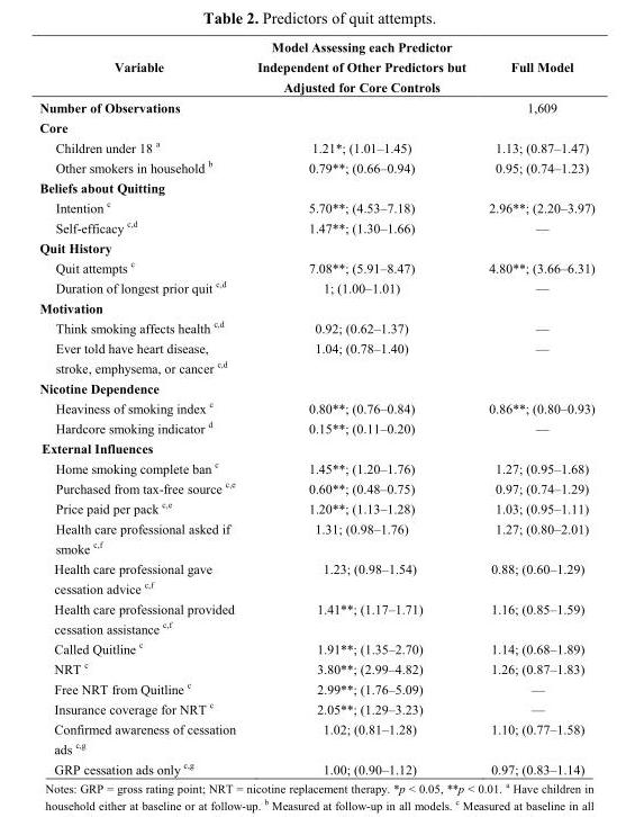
<table><thead><tr><td>Variable</td><td>Model Assessing each Predictor Independent of Other Predictors but Adjusted for Core Controls</td><td>Full Model</td></tr></thead><tbody><tr><td>Number of Observations</td><td></td><td>1,609</td></tr><tr><td colspan="3">Core</td></tr><tr><td>Children under 18 a</td><td>1.21*; (1.01–1.45)</td><td>1.13; (0.87–1.47)</td></tr><tr><td>Other smokers in household b</td><td>0.79**; (0.66–0.94)</td><td>0.95; (0.74–1.23)</td></tr><tr><td colspan="3">Beliefs about Quitting</td></tr><tr><td>Intention c</td><td>5.70**; (4.53–7.18)</td><td>2.96**; (2.20–3.97)</td></tr><tr><td>Self-efficacy c,d</td><td>1.47**; (1.30–1.66)</td><td>—</td></tr><tr><td colspan="3">Quit History</td></tr><tr><td>Quit attempts c</td><td>7.08**; (5.91–8.47)</td><td>4.80**; (3.66–6.31)</td></tr><tr><td>Duration of longest prior quit c,d</td><td>1; (1.00–1.01)</td><td>—</td></tr><tr><td colspan="3">Motivation</td></tr><tr><td>Think smoking affects health c,d</td><td>0.92; (0.62–1.37)</td><td>—</td></tr><tr><td>Ever told have heart disease, stroke, emphysema, or cancer c,d</td><td>1.04; (0.78–1.40)</td><td>—</td></tr><tr><td colspan="3">Nicotine Dependence</td></tr><tr><td>Heaviness of smoking index c</td><td>0.80**; (0.76–0.84)</td><td>0.86**; (0.80–0.93)</td></tr><tr><td>Hardcore smoking indicator d</td><td>0.15**; (0.11–0.20)</td><td>—</td></tr><tr><td colspan="3">External Influences</td></tr><tr><td>Home smoking complete ban c</td><td>1.45**; (1.20–1.76)</td><td>1.27; (0.95–1.68)</td></tr><tr><td>Purchased from tax-free source c,e</td><td>0.60**; (0.48–0.75)</td><td>0.97; (0.74–1.29)</td></tr><tr><td>Price paid per pack c,e</td><td>1.20**; (1.13–1.28)</td><td>1.03; (0.95–1.11)</td></tr><tr><td>Health care professional asked if smoke c,f</td><td>1.31; (0.98–1.76)</td><td>1.27; (0.80–2.01)</td></tr><tr><td>Health care professional gave cessation advice c,f</td><td>1.23; (0.98–1.54)</td><td>0.88; (0.60–1.29)</td></tr><tr><td>Health care professional provided cessation assistance c,f</td><td>1.41**; (1.17–1.71)</td><td>1.16; (0.85–1.59)</td></tr><tr><td>Called Quitline c</td><td>1.91**; (1.35–2.70)</td><td>1.14; (0.68–1.89)</td></tr><tr><td>NRT c</td><td>3.80**; (2.99–4.82)</td><td>1.26; (0.87–1.83)</td></tr><tr><td>Free NRT from Quitline c</td><td>2.99**; (1.76–5.09)</td><td>—</td></tr><tr><td>Insurance coverage for NRT c</td><td>2.05**; (1.29–3.23)</td><td>—</td></tr><tr><td>Confirmed awareness of cessation ads c,g</td><td>1.02; (0.81–1.28)</td><td>1.10; (0.77–1.58)</td></tr><tr><td>GRP cessation ads only c,g</td><td>1.00; (0.90–1.12)</td><td>0.97; (0.83–1.14)</td></tr></tbody></table>